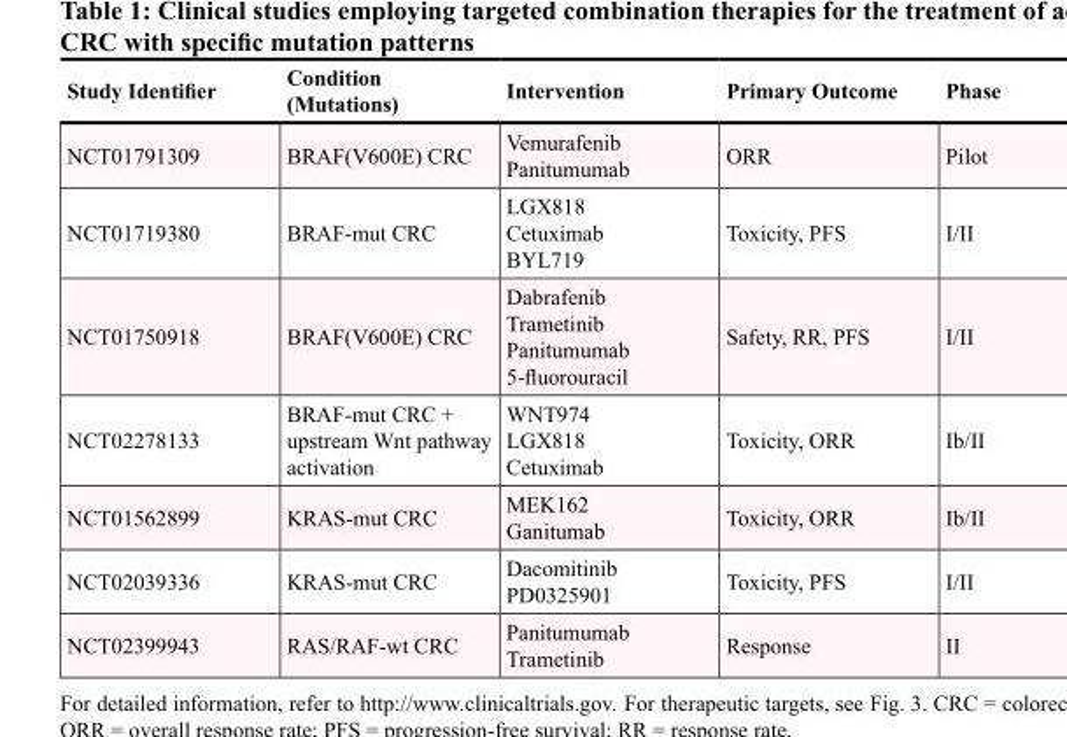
<table><thead><tr><td>Study Identifier</td><td>Condition (Mutations)</td><td>Intervention</td><td>Primary Outcome</td><td>Phase</td></tr></thead><tbody><tr><td>NCT01791309</td><td>BRAF(V600E) CRC</td><td>Vemurafenib Panitumumab</td><td>ORR</td><td>Pilot</td></tr><tr><td>NCT01719380</td><td>BRAF-mut CRC</td><td>LGX818 Cetuximab BYL719</td><td>Toxicity, PFS</td><td>I/II</td></tr><tr><td>NCT01750918</td><td>BRAF(V600E) CRC</td><td>Dabrafenib Trametinib Panitumumab 5-fluorouracil</td><td>Safety, RR, PFS</td><td>I/II</td></tr><tr><td>NCT02278133</td><td>BRAF-mut CRC + upstream Wnt pathway activation</td><td>WNT974 LGX818 Cetuximab</td><td>Toxicity, ORR</td><td>Ib/II</td></tr><tr><td>NCT01562899</td><td>KRAS-mut CRC</td><td>MEK162 Ganitumab</td><td>Toxicity, ORR</td><td>Ib/II</td></tr><tr><td>NCT02039336</td><td>KRAS-mut CRC</td><td>Dacomitinib PD0325901</td><td>Toxicity, PFS</td><td>I/II</td></tr><tr><td>NCT02399943</td><td>RAS/RAF-wt CRC</td><td>Panitumumab Trametinib</td><td>Response</td><td>II</td></tr></tbody></table>